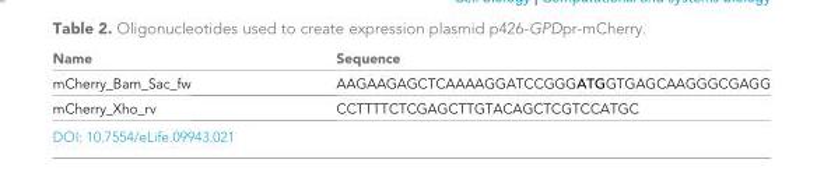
<table><thead><tr><td>Name</td><td>Sequence</td></tr></thead><tbody><tr><td>mCherry_Bam_Sac_fw</td><td>AAGAAGAGCTCAAAAGGATCCGGGATGGTGAGCAAGGGCGAGG</td></tr><tr><td>mCherry_Xho_rv</td><td>CCTTTTCTCGAGCTTGTACAGCTCGTCCATGC</td></tr></tbody></table>